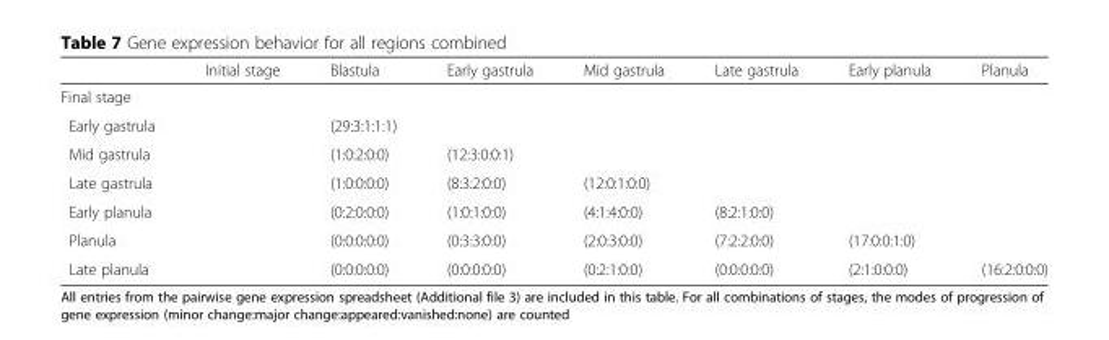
<table><thead><tr><td></td><td>Initial stage</td><td>Blastula</td><td>Early gastrula</td><td>Mid gastrula</td><td>Late gastrula</td><td>Early planula</td><td>Planula</td></tr></thead><tbody><tr><td colspan="8">Final stage</td></tr><tr><td>Early gastrula</td><td></td><td>(29:3:1:1:1)</td><td></td><td></td><td></td><td></td><td></td></tr><tr><td>Mid gastrula</td><td></td><td>(1:0:2:0:0)</td><td>(12:3:0:0:1)</td><td></td><td></td><td></td><td></td></tr><tr><td>Late gastrula</td><td></td><td>(1:0:0:0:0)</td><td>(8:3:2:0:0)</td><td>(12:0:1:0:0)</td><td></td><td></td><td></td></tr><tr><td>Early planula</td><td></td><td>(0:2:0:0:0)</td><td>(1:0:1:0:0)</td><td>(4:1:4:0:0)</td><td>(8:2:1:0:0)</td><td></td><td></td></tr><tr><td>Planula</td><td></td><td>(0:0:0:0:0)</td><td>(0:3:3:0:0)</td><td>(2:0:3:0:0)</td><td>(7:2:2:0:0)</td><td>(17:0:0:1:0)</td><td></td></tr><tr><td>Late planula</td><td></td><td>(0:0:0:0:0)</td><td>(0:0:0:0:0)</td><td>(0:2:1:0:0)</td><td>(0:0:0:0:0)</td><td>(2:1:0:0:0)</td><td>(16:2:0:0:0)</td></tr></tbody></table>